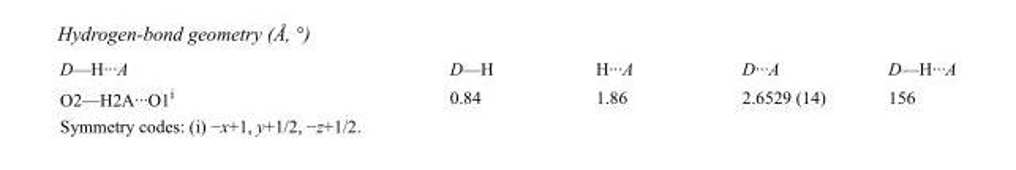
<table><tbody><tr><td>D—H···A</td><td>D—H</td><td>H···A</td><td>D···A</td><td>D—H···A</td></tr><tr><td>O2—H2A···O1<sup>i</sup></td><td>0.84</td><td>1.86</td><td>2.6529 (14)</td><td>156</td></tr></tbody></table>